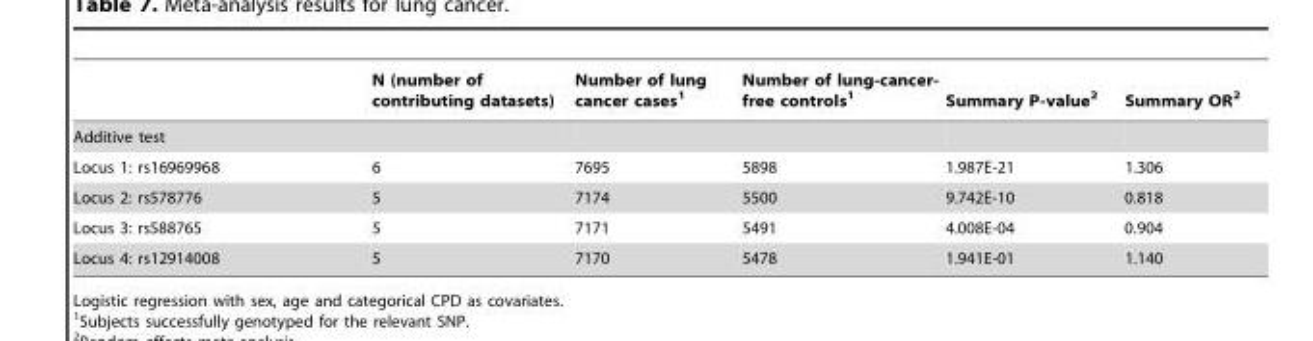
<table><thead><tr><td></td><td>N (number of contributing datasets)</td><td>Number of lung cancer cases<sup>1</sup></td><td>Number of lung-cancer- free controls<sup>1</sup></td><td>Summary P-value<sup>2</sup></td><td>Summary OR<sup>2</sup></td></tr></thead><tbody><tr><td colspan="6">Additive test</td></tr><tr><td>Locus 1: rs16969968</td><td>6</td><td>7695</td><td>5898</td><td>1.987E-21</td><td>1.306</td></tr><tr><td>Locus 2: rs578776</td><td>5</td><td>7174</td><td>5500</td><td>9.742E-10</td><td>0.818</td></tr><tr><td>Locus 3: rs588765</td><td>5</td><td>7171</td><td>5491</td><td>4.008E-04</td><td>0.904</td></tr><tr><td>Locus 4: rs12914008</td><td>5</td><td>7170</td><td>5478</td><td>1.941E-01</td><td>1.140</td></tr></tbody></table>